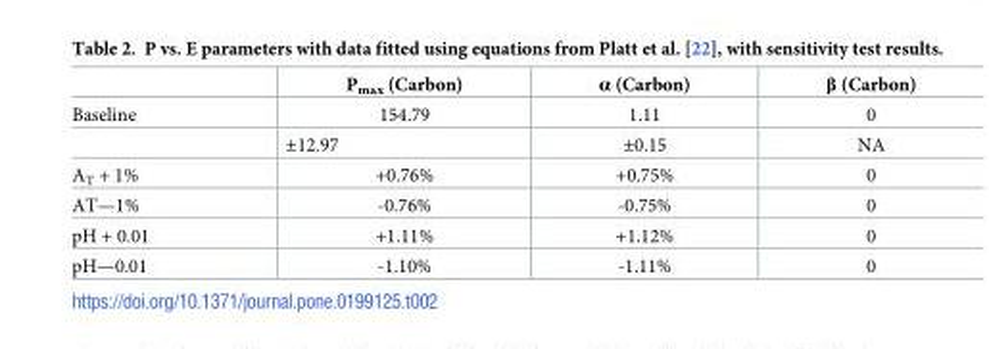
<table><thead><tr><td></td><td>P<sub>max</sub> (Carbon)</td><td>α (Carbon)</td><td>β (Carbon)</td></tr></thead><tbody><tr><td rowspan="2">Baseline</td><td>154.79</td><td>1.11</td><td>0</td></tr><tr><td>±12.97</td><td>±0.15</td><td>NA</td></tr><tr><td>A<sub>T</sub> + 1%</td><td>+0.76%</td><td>+0.75%</td><td>0</td></tr><tr><td>AT—1%</td><td>-0.76%</td><td>-0.75%</td><td>0</td></tr><tr><td>pH + 0.01</td><td>+1.11%</td><td>+1.12%</td><td>0</td></tr><tr><td>pH—0.01</td><td>-1.10%</td><td>-1.11%</td><td>0</td></tr></tbody></table>